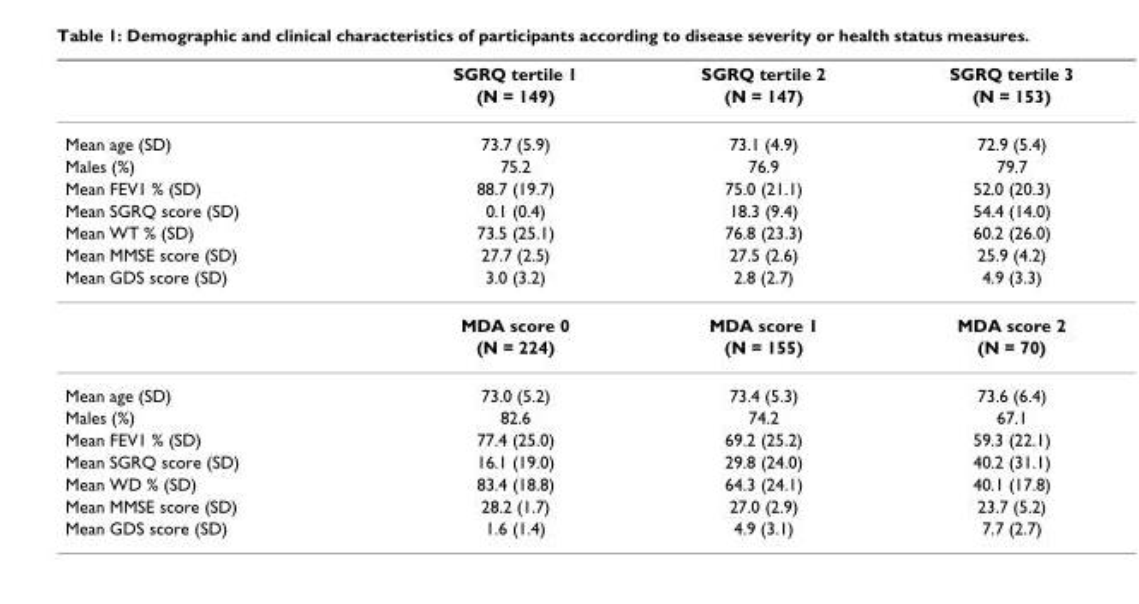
<table><thead><tr><td rowspan="2"></td><td rowspan="2">SGRQ tertile 1 (N = 149)</td><td rowspan="2">SGRQ tertile 2 (N = 147)</td><td rowspan="2">SGRQ tertile 3 (N = 153)</td></tr><tr></tr></thead><tbody><tr><td>Mean age (SD)</td><td>73.7 (5.9)</td><td>73.1 (4.9)</td><td>72.9 (5.4)</td></tr><tr><td>Males (%)</td><td>75.2</td><td>76.9</td><td>79.7</td></tr><tr><td>Mean FEV1 % (SD)</td><td>88.7 (19.7)</td><td>75.0 (21.1)</td><td>52.0 (20.3)</td></tr><tr><td>Mean SGRQ score (SD)</td><td>0.1 (0.4)</td><td>18.3 (9.4)</td><td>54.4 (14.0)</td></tr><tr><td>Mean WT % (SD)</td><td>73.5 (25.1)</td><td>76.8 (23.3)</td><td>60.2 (26.0)</td></tr><tr><td>Mean MMSE score (SD)</td><td>27.7 (2.5)</td><td>27.5 (2.6)</td><td>25.9 (4.2)</td></tr><tr><td rowspan="3">Mean GDS score (SD)</td><td>3.0 (3.2)</td><td>2.8 (2.7)</td><td>4.9 (3.3)</td></tr><tr><td>MDA score 0</td><td>MDA score 1</td><td>MDA score 2</td></tr><tr><td>(N = 224)</td><td>(N = 155)</td><td>(N = 70)</td></tr><tr><td>Mean age (SD)</td><td>73.0 (5.2)</td><td>73.4 (5.3)</td><td>73.6 (6.4)</td></tr><tr><td>Males (%)</td><td>82.6</td><td>74.2</td><td>67.1</td></tr><tr><td>Mean FEV1 % (SD)</td><td>77.4 (25.0)</td><td>69.2 (25.2)</td><td>59.3 (22.1)</td></tr><tr><td>Mean SGRQ score (SD)</td><td>16.1 (19.0)</td><td>29.8 (24.0)</td><td>40.2 (31.1)</td></tr><tr><td>Mean WD % (SD)</td><td>83.4 (18.8)</td><td>64.3 (24.1)</td><td>40.1 (17.8)</td></tr><tr><td>Mean MMSE score (SD)</td><td>28.2 (1.7)</td><td>27.0 (2.9)</td><td>23.7 (5.2)</td></tr><tr><td>Mean GDS score (SD)</td><td>1.6 (1.4)</td><td>4.9 (3.1)</td><td>7.7 (2.7)</td></tr></tbody></table>